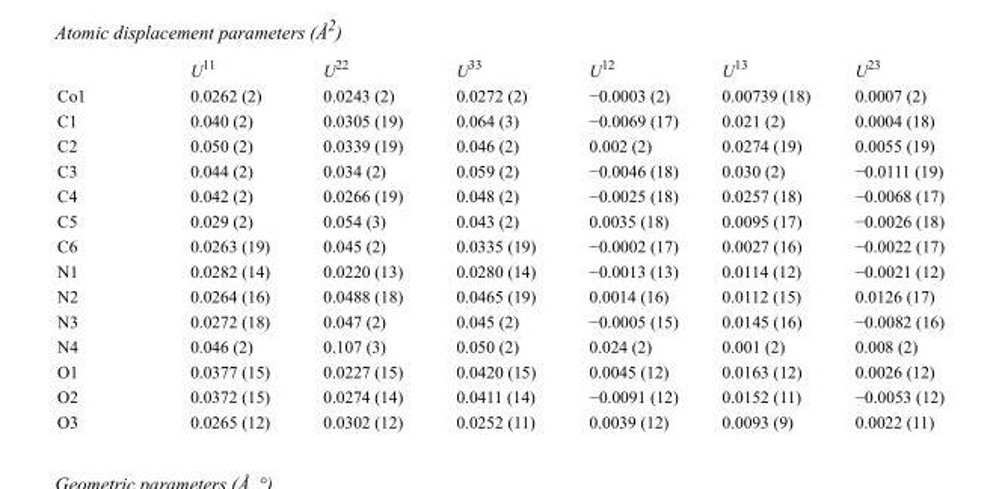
<table><thead><tr><td></td><td>U<sup>11</sup></td><td>U<sup>22</sup></td><td>U<sup>33</sup></td><td>U<sup>12</sup></td><td>U<sup>13</sup></td><td>U<sup>23</sup></td></tr></thead><tbody><tr><td>Co1</td><td>0.0262 (2)</td><td>0.0243 (2)</td><td>0.0272 (2)</td><td>−0.0003 (2)</td><td>0.00739 (18)</td><td>0.0007 (2)</td></tr><tr><td>C1</td><td>0.040 (2)</td><td>0.0305 (19)</td><td>0.064 (3)</td><td>−0.0069 (17)</td><td>0.021 (2)</td><td>0.0004 (18)</td></tr><tr><td>C2</td><td>0.050 (2)</td><td>0.0339 (19)</td><td>0.046 (2)</td><td>0.002 (2)</td><td>0.0274 (19)</td><td>0.0055 (19)</td></tr><tr><td>C3</td><td>0.044 (2)</td><td>0.034 (2)</td><td>0.059 (2)</td><td>−0.0046 (18)</td><td>0.030 (2)</td><td>−0.0111 (19)</td></tr><tr><td>C4</td><td>0.042 (2)</td><td>0.0266 (19)</td><td>0.048 (2)</td><td>−0.0025 (18)</td><td>0.0257 (18)</td><td>−0.0068 (17)</td></tr><tr><td>C5</td><td>0.029 (2)</td><td>0.054 (3)</td><td>0.043 (2)</td><td>0.0035 (18)</td><td>0.0095 (17)</td><td>−0.0026 (18)</td></tr><tr><td>C6</td><td>0.0263 (19)</td><td>0.045 (2)</td><td>0.0335 (19)</td><td>−0.0002 (17)</td><td>0.0027 (16)</td><td>−0.0022 (17)</td></tr><tr><td>N1</td><td>0.0282 (14)</td><td>0.0220 (13)</td><td>0.0280 (14)</td><td>−0.0013 (13)</td><td>0.0114 (12)</td><td>−0.0021 (12)</td></tr><tr><td>N2</td><td>0.0264 (16)</td><td>0.0488 (18)</td><td>0.0465 (19)</td><td>0.0014 (16)</td><td>0.0112 (15)</td><td>0.0126 (17)</td></tr><tr><td>N3</td><td>0.0272 (18)</td><td>0.047 (2)</td><td>0.045 (2)</td><td>−0.0005 (15)</td><td>0.0145 (16)</td><td>−0.0082 (16)</td></tr><tr><td>N4</td><td>0.046 (2)</td><td>0.107 (3)</td><td>0.050 (2)</td><td>0.024 (2)</td><td>0.001 (2)</td><td>0.008 (2)</td></tr><tr><td>O1</td><td>0.0377 (15)</td><td>0.0227 (15)</td><td>0.0420 (15)</td><td>0.0045 (12)</td><td>0.0163 (12)</td><td>0.0026 (12)</td></tr><tr><td>O2</td><td>0.0372 (15)</td><td>0.0274 (14)</td><td>0.0411 (14)</td><td>−0.0091 (12)</td><td>0.0152 (11)</td><td>−0.0053 (12)</td></tr><tr><td>O3</td><td>0.0265 (12)</td><td>0.0302 (12)</td><td>0.0252 (11)</td><td>0.0039 (12)</td><td>0.0093 (9)</td><td>0.0022 (11)</td></tr></tbody></table>